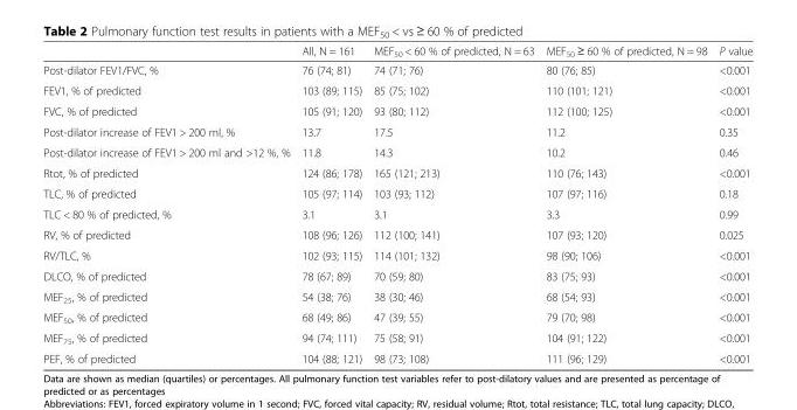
<table><thead><tr><td></td><td>All, N = 161</td><td>MEF<sub>50</sub> &lt; 60 % of predicted, N = 63</td><td>MEF<sub>50</sub> ≥ 60 % of predicted, N = 98</td><td>P value</td></tr></thead><tbody><tr><td>Post-dilator FEV1/FVC, %</td><td>76 (74; 81)</td><td>74 (71; 76)</td><td>80 (76; 85)</td><td>&lt;0.001</td></tr><tr><td>FEV1, % of predicted</td><td>103 (89; 115)</td><td>85 (75; 102)</td><td>110 (101; 121)</td><td>&lt;0.001</td></tr><tr><td>FVC, % of predicted</td><td>105 (91; 120)</td><td>93 (80; 112)</td><td>112 (100; 125)</td><td>&lt;0.001</td></tr><tr><td>Post-dilator increase of FEV1 &gt; 200 ml, %</td><td>13.7</td><td>17.5</td><td>11.2</td><td>0.35</td></tr><tr><td>Post-dilator increase of FEV1 &gt; 200 ml and &gt;12 %, %</td><td>11.8</td><td>14.3</td><td>10.2</td><td>0.46</td></tr><tr><td>Rtot, % of predicted</td><td>124 (86; 178)</td><td>165 (121; 213)</td><td>110 (76; 143)</td><td>&lt;0.001</td></tr><tr><td>TLC, % of predicted</td><td>105 (97; 114)</td><td>103 (93; 112)</td><td>107 (97; 116)</td><td>0.18</td></tr><tr><td>TLC &lt; 80 % of predicted, %</td><td>3.1</td><td>3.1</td><td>3.3</td><td>0.99</td></tr><tr><td>RV, % of predicted</td><td>108 (96; 126)</td><td>112 (100; 141)</td><td>107 (93; 120)</td><td>0.025</td></tr><tr><td>RV/TLC, %</td><td>102 (93; 115)</td><td>114 (101; 132)</td><td>98 (90; 106)</td><td>&lt;0.001</td></tr><tr><td>DLCO, % of predicted</td><td>78 (67; 89)</td><td>70 (59; 80)</td><td>83 (75; 93)</td><td>&lt;0.001</td></tr><tr><td>MEF<sub>25</sub>, % of predicted</td><td>54 (38; 76)</td><td>38 (30; 46)</td><td>68 (54; 93)</td><td>&lt;0.001</td></tr><tr><td>MEF<sub>50</sub>, % of predicted</td><td>68 (49; 86)</td><td>47 (39; 55)</td><td>79 (70; 98)</td><td>&lt;0.001</td></tr><tr><td>MEF<sub>75</sub>, % of predicted</td><td>94 (74; 111)</td><td>75 (58; 91)</td><td>104 (91; 122)</td><td>&lt;0.001</td></tr><tr><td>PEF, % of predicted</td><td>104 (88; 121)</td><td>98 (73; 108)</td><td>111 (96; 129)</td><td>&lt;0.001</td></tr></tbody></table>